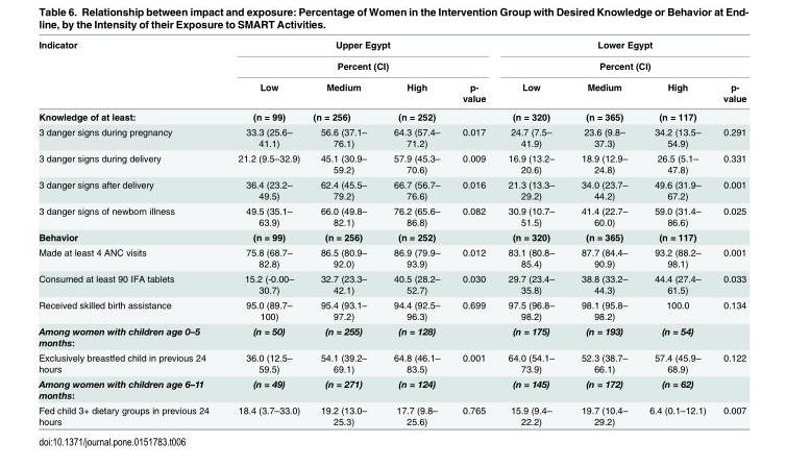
<table><thead><tr><td rowspan="3">Indicator</td><td rowspan="2" colspan="4">Upper Egypt Percent (CI)</td><td rowspan="2" colspan="4">Lower Egypt Percent (CI)</td></tr><tr></tr><tr><td>Low</td><td>Medium</td><td>High</td><td>p- value</td><td>Low</td><td>Medium</td><td>High</td><td>p- value</td></tr></thead><tbody><tr><td>Knowledge of at least:</td><td>(n = 99)</td><td>(n = 256)</td><td>(n = 252)</td><td></td><td>(n = 320)</td><td>(n = 365)</td><td>(n = 117)</td><td></td></tr><tr><td>3 danger signs during pregnancy</td><td>33.3 (25.6– 41.1)</td><td>56.6 (37.1– 76.1)</td><td>64.3 (57.4– 71.2)</td><td>0.017</td><td>24.7 (7.5– 41.9)</td><td>23.6 (9.8– 37.3)</td><td>34.2 (13.5– 54.9)</td><td>0.291</td></tr><tr><td>3 danger signs during delivery</td><td>21.2 (9.5–32.9)</td><td>45.1 (30.9– 59.2)</td><td>57.9 (45.3– 70.6)</td><td>0.009</td><td>16.9 (13.2– 20.6)</td><td>18.9 (12.9– 24.8)</td><td>26.5 (5.1– 47.8)</td><td>0.331</td></tr><tr><td>3 danger signs after delivery</td><td>36.4 (23.2– 49.5)</td><td>62.4 (45.5– 79.2)</td><td>66.7 (56.7– 76.6)</td><td>0.016</td><td>21.3 (13.3– 29.2)</td><td>34.0 (23.7– 44.2)</td><td>49.6 (31.9– 67.2)</td><td>0.001</td></tr><tr><td>3 danger signs of newborn illness</td><td>49.5 (35.1– 63.9)</td><td>66.0 (49.8– 82.1)</td><td>76.2 (65.6– 86.8)</td><td>0.082</td><td>30.9 (10.7– 51.5)</td><td>41.4 (22.7– 60.0)</td><td>59.0 (31.4– 86.6)</td><td>0.025</td></tr><tr><td>Behavior</td><td>(n = 99)</td><td>(n = 256)</td><td>(n = 252)</td><td></td><td>(n = 320)</td><td>(n = 365)</td><td>(n = 117)</td><td></td></tr><tr><td>Made at least 4 ANC visits</td><td>75.8 (68.7– 82.8)</td><td>86.5 (80.9– 92.0)</td><td>86.9 (79.9– 93.9)</td><td>0.012</td><td>83.1 (80.8– 85.4)</td><td>87.7 (84.4– 90.9)</td><td>93.2 (88.2– 98.1)</td><td>0.001</td></tr><tr><td>Consumed at least 90 IFA tablets</td><td>15.2 (-0.00– 30.7)</td><td>32.7 (23.3– 42.1)</td><td>40.5 (28.2– 52.7)</td><td>0.030</td><td>29.7 (23.4– 35.8)</td><td>38.8 (33.2– 44.3)</td><td>44.4 (27.4– 61.5)</td><td>0.033</td></tr><tr><td>Received skilled birth assistance</td><td>95.0 (89.7– 100)</td><td>95.4 (93.1– 97.2)</td><td>94.4 (92.5– 96.3)</td><td>0.699</td><td>97.5 (96.8– 98.2)</td><td>98.1 (95.8– 98.2)</td><td>100.0</td><td>0.134</td></tr><tr><td>Among women with children age 0–5 months:</td><td>(n = 50)</td><td>(n = 255)</td><td>(n = 128)</td><td></td><td>(n = 175)</td><td>(n = 193)</td><td>(n = 54)</td><td></td></tr><tr><td>Exclusively breastfed child in previous 24 hours</td><td>36.0 (12.5– 59.5)</td><td>54.1 (39.2– 69.1)</td><td>64.8 (46.1– 83.5)</td><td>0.001</td><td>64.0 (54.1– 73.9)</td><td>52.3 (38.7– 66.1)</td><td>57.4 (45.9– 68.9)</td><td>0.122</td></tr><tr><td>Among women with children age 6–11 months:</td><td>(n = 49)</td><td>(n = 271)</td><td>(n = 124)</td><td></td><td>(n = 145)</td><td>(n = 172)</td><td>(n = 62)</td><td></td></tr><tr><td>Fed child 3+ dietary groups in previous 24 hours</td><td>18.4 (3.7–33.0)</td><td>19.2 (13.0– 25.3)</td><td>17.7 (9.8– 25.6)</td><td>0.765</td><td>15.9 (9.4– 22.2)</td><td>19.7 (10.4– 29.2)</td><td>6.4 (0.1–12.1)</td><td>0.007</td></tr></tbody></table>